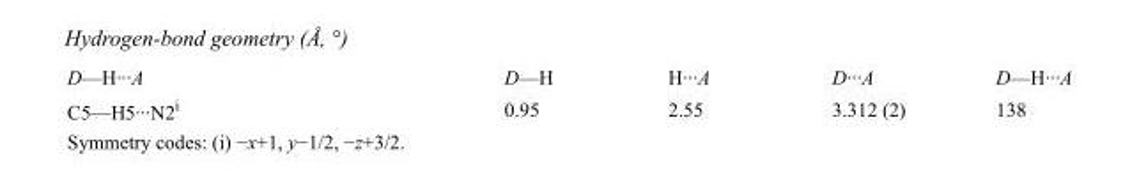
<table><tbody><tr><td>D—H···A</td><td>D—H</td><td>H···A</td><td>D···A</td><td>D—H···A</td></tr><tr><td>C5—H5···N2<sup>i</sup></td><td>0.95</td><td>2.55</td><td>3.312 (2)</td><td>138</td></tr></tbody></table>